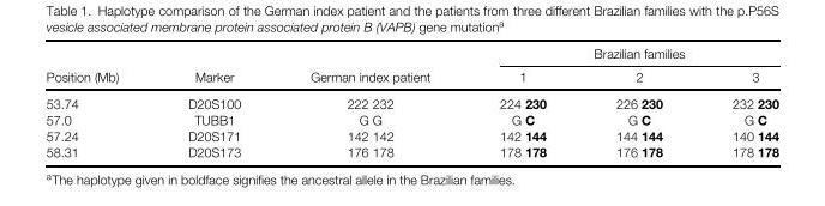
<table><thead><tr><td rowspan="2">Position (Mb)</td><td rowspan="2">Marker</td><td rowspan="2">German index patient</td><td colspan="3">Brazilian families</td></tr><tr><td>1</td><td>2</td><td>3</td></tr></thead><tbody><tr><td>53.74</td><td>D20S100</td><td>222 232</td><td>224 230</td><td>226 230</td><td>232 230</td></tr><tr><td>57.0</td><td>TUBB1</td><td>G G</td><td>G C</td><td>G C</td><td>G C</td></tr><tr><td>57.24</td><td>D20S171</td><td>142 142</td><td>142 144</td><td>144 144</td><td>140 144</td></tr><tr><td>58.31</td><td>D20S173</td><td>176 178</td><td>178 178</td><td>176 178</td><td>178 178</td></tr></tbody></table>